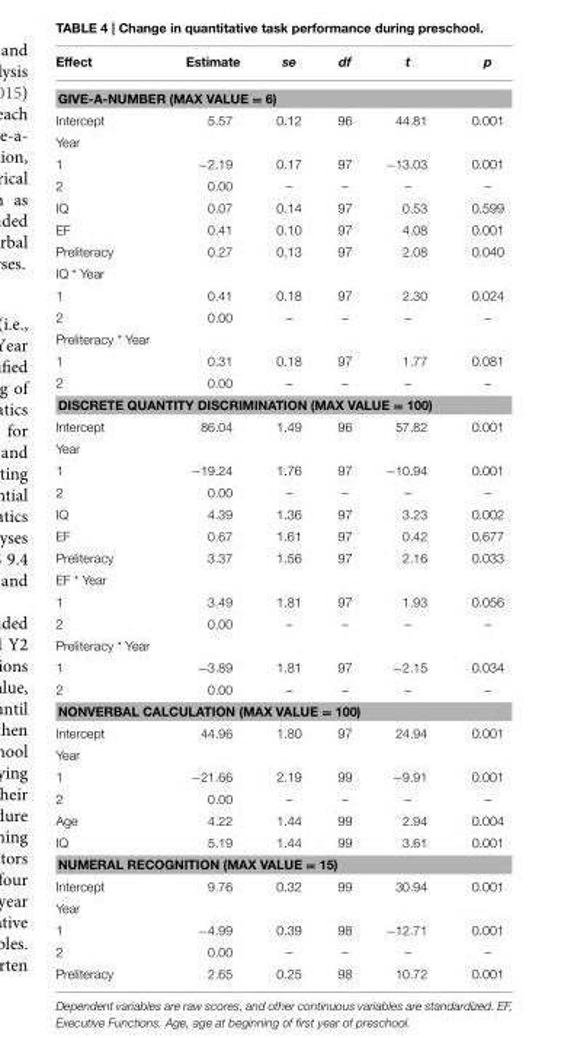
<table><thead><tr><td>Effect</td><td>Estimate</td><td>se</td><td>df</td><td>t</td><td>p</td></tr></thead><tbody><tr><td colspan="6">GIVE-A-NUMBER (MAX VALUE = 6)</td></tr><tr><td>Intercept</td><td>5.57</td><td>0.12</td><td>96</td><td>44.81</td><td>0.001</td></tr><tr><td colspan="6">Year</td></tr><tr><td>1</td><td>−2.19</td><td>0.17</td><td>97</td><td>−13.03</td><td>0.001</td></tr><tr><td>2</td><td>0.00</td><td>–</td><td>–</td><td>–</td><td>–</td></tr><tr><td>IQ</td><td>0.07</td><td>0.14</td><td>97</td><td>0.53</td><td>0.599</td></tr><tr><td>EF</td><td>0.41</td><td>0.10</td><td>97</td><td>4.08</td><td>0.001</td></tr><tr><td>Preliteracy</td><td>0.27</td><td>0.13</td><td>97</td><td>2.08</td><td>0.040</td></tr><tr><td colspan="6">IQ * Year</td></tr><tr><td>1</td><td>0.41</td><td>0.18</td><td>97</td><td>2.30</td><td>0.024</td></tr><tr><td>2</td><td>0.00</td><td>–</td><td>–</td><td>–</td><td>–</td></tr><tr><td colspan="6">Preliteracy * Year</td></tr><tr><td>1</td><td>0.31</td><td>0.18</td><td>97</td><td>1.77</td><td>0.081</td></tr><tr><td>2</td><td>0.00</td><td>–</td><td>–</td><td>–</td><td>–</td></tr><tr><td colspan="6">DISCRETE QUANTITY DISCRIMINATION (MAX VALUE = 100)</td></tr><tr><td>Intercept</td><td>86.04</td><td>1.49</td><td>96</td><td>57.82</td><td>0.001</td></tr><tr><td colspan="6">Year</td></tr><tr><td>1</td><td>−19.24</td><td>1.76</td><td>97</td><td>−10.94</td><td>0.001</td></tr><tr><td>2</td><td>0.00</td><td>–</td><td>–</td><td>–</td><td>–</td></tr><tr><td>IQ</td><td>4.39</td><td>1.36</td><td>97</td><td>3.23</td><td>0.002</td></tr><tr><td>EF</td><td>0.67</td><td>1.61</td><td>97</td><td>0.42</td><td>0.677</td></tr><tr><td>Preliteracy</td><td>3.37</td><td>1.56</td><td>97</td><td>2.16</td><td>0.033</td></tr><tr><td colspan="6">EF * Year</td></tr><tr><td>1</td><td>3.49</td><td>1.81</td><td>97</td><td>1.93</td><td>0.056</td></tr><tr><td>2</td><td>0.00</td><td>–</td><td>–</td><td>–</td><td>–</td></tr><tr><td colspan="6">Preliteracy * Year</td></tr><tr><td>1</td><td>−3.89</td><td>1.81</td><td>97</td><td>−2.15</td><td>0.034</td></tr><tr><td>2</td><td>0.00</td><td>–</td><td>–</td><td>–</td><td>–</td></tr><tr><td colspan="6">NONVERBAL CALCULATION (MAX VALUE = 100)</td></tr><tr><td>Intercept</td><td>44.96</td><td>1.80</td><td>97</td><td>24.94</td><td>0.001</td></tr><tr><td colspan="6">Year</td></tr><tr><td>1</td><td>−21.66</td><td>2.19</td><td>99</td><td>−9.91</td><td>0.001</td></tr><tr><td>2</td><td>0.00</td><td>–</td><td>–</td><td>–</td><td>–</td></tr><tr><td>Age</td><td>4.22</td><td>1.44</td><td>99</td><td>2.94</td><td>0.004</td></tr><tr><td>IQ</td><td>5.19</td><td>1.44</td><td>99</td><td>3.61</td><td>0.001</td></tr><tr><td colspan="6">NUMERAL RECOGNITION (MAX VALUE = 15)</td></tr><tr><td>Intercept</td><td>9.76</td><td>0.32</td><td>99</td><td>30.94</td><td>0.001</td></tr><tr><td colspan="6">Year</td></tr><tr><td>1</td><td>−4.99</td><td>0.39</td><td>98</td><td>−12.71</td><td>0.001</td></tr><tr><td>2</td><td>0.00</td><td>–</td><td>–</td><td>–</td><td>–</td></tr><tr><td>Preliteracy</td><td>2.65</td><td>0.25</td><td>98</td><td>10.72</td><td>0.001</td></tr></tbody></table>